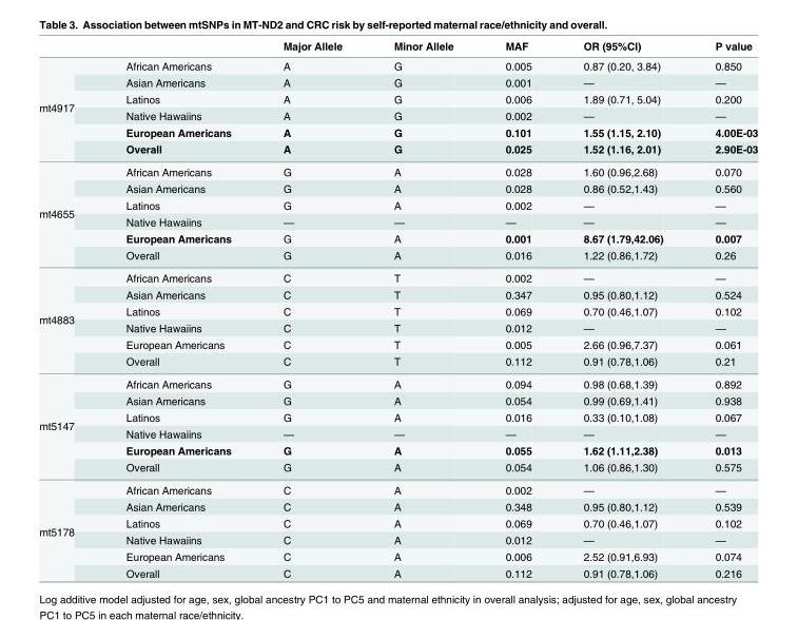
<table><thead><tr><td></td><td></td><td>Major Allele</td><td>Minor Allele</td><td>MAF</td><td>OR (95%CI)</td><td>P value</td></tr></thead><tbody><tr><td rowspan="6">mt4917</td><td>African Americans</td><td>A</td><td>G</td><td>0.005</td><td>0.87 (0.20, 3.84)</td><td>0.850</td></tr><tr><td>Asian Americans</td><td>A</td><td>G</td><td>0.001</td><td>—</td><td>—</td></tr><tr><td>Latinos</td><td>A</td><td>G</td><td>0.006</td><td>1.89 (0.71, 5.04)</td><td>0.200</td></tr><tr><td>Native Hawaiins</td><td>A</td><td>G</td><td>0.002</td><td>—</td><td>—</td></tr><tr><td>European Americans</td><td>A</td><td>G</td><td>0.101</td><td>1.55 (1.15, 2.10)</td><td>4.00E-03</td></tr><tr><td>Overall</td><td>A</td><td>G</td><td>0.025</td><td>1.52 (1.16, 2.01)</td><td>2.90E-03</td></tr><tr><td rowspan="6">mt4655</td><td>African Americans</td><td>G</td><td>A</td><td>0.028</td><td>1.60 (0.96,2.68)</td><td>0.070</td></tr><tr><td>Asian Americans</td><td>G</td><td>A</td><td>0.028</td><td>0.86 (0.52,1.43)</td><td>0.560</td></tr><tr><td>Latinos</td><td>G</td><td>A</td><td>0.002</td><td>—</td><td>—</td></tr><tr><td>Native Hawaiins</td><td>—</td><td>—</td><td>—</td><td>—</td><td>—</td></tr><tr><td>European Americans</td><td>G</td><td>A</td><td>0.001</td><td>8.67 (1.79,42.06)</td><td>0.007</td></tr><tr><td>Overall</td><td>G</td><td>A</td><td>0.016</td><td>1.22 (0.86,1.72)</td><td>0.26</td></tr><tr><td rowspan="6">mt4883</td><td>African Americans</td><td>C</td><td>T</td><td>0.002</td><td>—</td><td>—</td></tr><tr><td>Asian Americans</td><td>C</td><td>T</td><td>0.347</td><td>0.95 (0.80,1.12)</td><td>0.524</td></tr><tr><td>Latinos</td><td>C</td><td>T</td><td>0.069</td><td>0.70 (0.46,1.07)</td><td>0.102</td></tr><tr><td>Native Hawaiins</td><td>C</td><td>T</td><td>0.012</td><td>—</td><td>—</td></tr><tr><td>European Americans</td><td>C</td><td>T</td><td>0.005</td><td>2.66 (0.96,7.37)</td><td>0.061</td></tr><tr><td>Overall</td><td>C</td><td>T</td><td>0.112</td><td>0.91 (0.78,1.06)</td><td>0.21</td></tr><tr><td rowspan="6">mt5147</td><td>African Americans</td><td>G</td><td>A</td><td>0.094</td><td>0.98 (0.68,1.39)</td><td>0.892</td></tr><tr><td>Asian Americans</td><td>G</td><td>A</td><td>0.054</td><td>0.99 (0.69,1.41)</td><td>0.938</td></tr><tr><td>Latinos</td><td>G</td><td>A</td><td>0.016</td><td>0.33 (0.10,1.08)</td><td>0.067</td></tr><tr><td>Native Hawaiins</td><td>—</td><td>—</td><td>—</td><td>—</td><td>—</td></tr><tr><td>European Americans</td><td>G</td><td>A</td><td>0.055</td><td>1.62 (1.11,2.38)</td><td>0.013</td></tr><tr><td>Overall</td><td>G</td><td>A</td><td>0.054</td><td>1.06 (0.86,1.30)</td><td>0.575</td></tr><tr><td rowspan="6">mt5178</td><td>African Americans</td><td>C</td><td>A</td><td>0.002</td><td>—</td><td>—</td></tr><tr><td>Asian Americans</td><td>C</td><td>A</td><td>0.348</td><td>0.95 (0.80,1.12)</td><td>0.539</td></tr><tr><td>Latinos</td><td>C</td><td>A</td><td>0.069</td><td>0.70 (0.46,1.07)</td><td>0.102</td></tr><tr><td>Native Hawaiins</td><td>C</td><td>A</td><td>0.012</td><td>—</td><td>—</td></tr><tr><td>European Americans</td><td>C</td><td>A</td><td>0.006</td><td>2.52 (0.91,6.93)</td><td>0.074</td></tr><tr><td>Overall</td><td>C</td><td>A</td><td>0.112</td><td>0.91 (0.78,1.06)</td><td>0.216</td></tr></tbody></table>